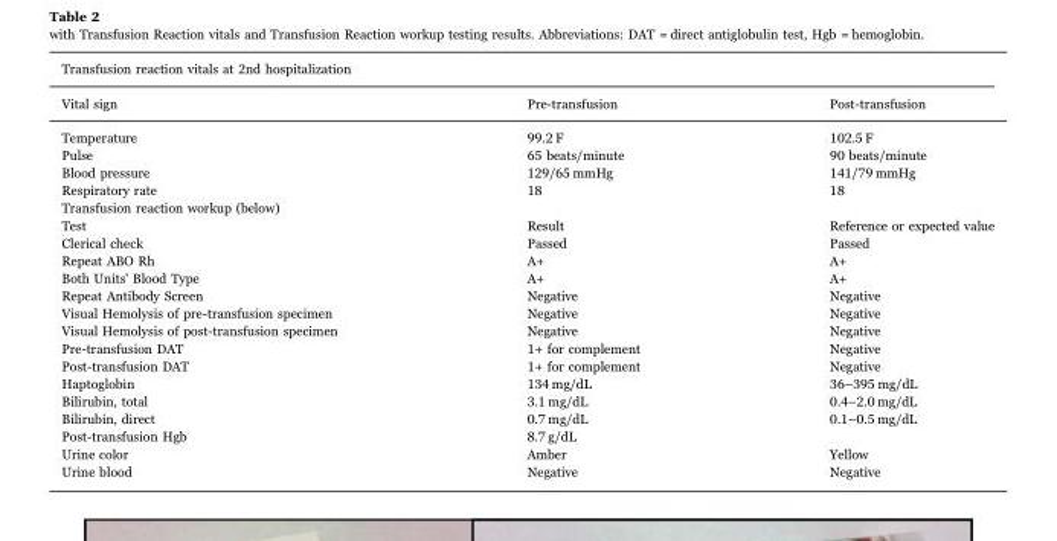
<table><thead><tr><td colspan="3">Transfusion reaction vitals at 2nd hospitalization</td></tr><tr><td>Vital sign</td><td>Pre-transfusion</td><td>Post-transfusion</td></tr></thead><tbody><tr><td>Temperature</td><td>99.2 F</td><td>102.5 F</td></tr><tr><td>Pulse</td><td>65 beats/minute</td><td>90 beats/minute</td></tr><tr><td>Blood pressure</td><td>129/65 mmHg</td><td>141/79 mmHg</td></tr><tr><td>Respiratory rate</td><td>18</td><td>18</td></tr><tr><td colspan="3">Transfusion reaction workup (below)</td></tr><tr><td>Test</td><td>Result</td><td>Reference or expected value</td></tr><tr><td>Clerical check</td><td>Passed</td><td>Passed</td></tr><tr><td>Repeat ABO Rh</td><td>A+</td><td>A+</td></tr><tr><td>Both Units&#x27; Blood Type</td><td>A+</td><td>A+</td></tr><tr><td>Repeat Antibody Screen</td><td>Negative</td><td>Negative</td></tr><tr><td>Visual Hemolysis of pre-transfusion specimen</td><td>Negative</td><td>Negative</td></tr><tr><td>Visual Hemolysis of post-transfusion specimen</td><td>Negative</td><td>Negative</td></tr><tr><td>Pre-transfusion DAT</td><td>1+ for complement</td><td>Negative</td></tr><tr><td>Post-transfusion DAT</td><td>1+ for complement</td><td>Negative</td></tr><tr><td>Haptoglobin</td><td>134 mg/dL</td><td>36–395 mg/dL</td></tr><tr><td>Bilirubin, total</td><td>3.1 mg/dL</td><td>0.4–2.0 mg/dL</td></tr><tr><td>Bilirubin, direct</td><td>0.7 mg/dL</td><td>0.1–0.5 mg/dL</td></tr><tr><td>Post-transfusion Hgb</td><td>8.7 g/dL</td><td></td></tr><tr><td>Urine color</td><td>Amber</td><td>Yellow</td></tr><tr><td>Urine blood</td><td>Negative</td><td>Negative</td></tr></tbody></table>